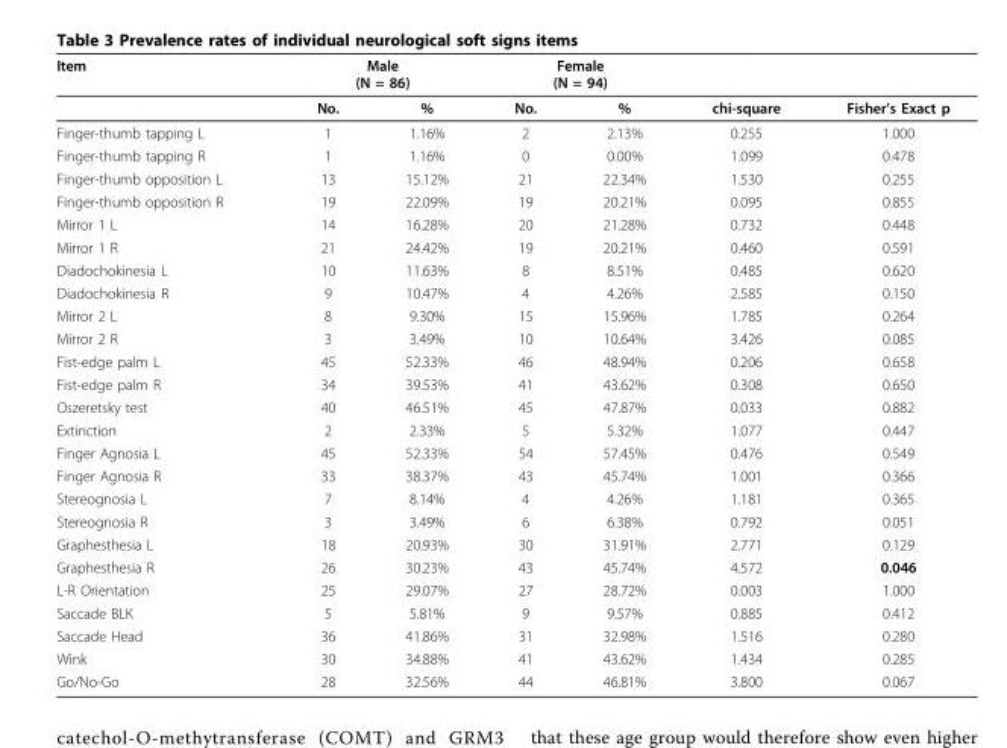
<table><thead><tr><td rowspan="2">Item</td><td colspan="2">Male (N = 86)</td><td colspan="2">Female (N = 94)</td><td rowspan="2">chi-square</td><td rowspan="2">Fisher’s Exact p</td></tr><tr><td>No.</td><td>%</td><td>No.</td><td>%</td></tr></thead><tbody><tr><td>Finger-thumb tapping L</td><td>1</td><td>1.16%</td><td>2</td><td>2.13%</td><td>0.255</td><td>1.000</td></tr><tr><td>Finger-thumb tapping R</td><td>1</td><td>1.16%</td><td>0</td><td>0.00%</td><td>1.099</td><td>0.478</td></tr><tr><td>Finger-thumb opposition L</td><td>13</td><td>15.12%</td><td>21</td><td>22.34%</td><td>1.530</td><td>0.255</td></tr><tr><td>Finger-thumb opposition R</td><td>19</td><td>22.09%</td><td>19</td><td>20.21%</td><td>0.095</td><td>0.855</td></tr><tr><td>Mirror 1 L</td><td>14</td><td>16.28%</td><td>20</td><td>21.28%</td><td>0.732</td><td>0.448</td></tr><tr><td>Mirror 1 R</td><td>21</td><td>24.42%</td><td>19</td><td>20.21%</td><td>0.460</td><td>0.591</td></tr><tr><td>Diadochokinesia L</td><td>10</td><td>11.63%</td><td>8</td><td>8.51%</td><td>0.485</td><td>0.620</td></tr><tr><td>Diadochokinesia R</td><td>9</td><td>10.47%</td><td>4</td><td>4.26%</td><td>2.585</td><td>0.150</td></tr><tr><td>Mirror 2 L</td><td>8</td><td>9.30%</td><td>15</td><td>15.96%</td><td>1.785</td><td>0.264</td></tr><tr><td>Mirror 2 R</td><td>3</td><td>3.49%</td><td>10</td><td>10.64%</td><td>3.426</td><td>0.085</td></tr><tr><td>Fist-edge palm L</td><td>45</td><td>52.33%</td><td>46</td><td>48.94%</td><td>0.206</td><td>0.658</td></tr><tr><td>Fist-edge palm R</td><td>34</td><td>39.53%</td><td>41</td><td>43.62%</td><td>0.308</td><td>0.650</td></tr><tr><td>Oszeretsky test</td><td>40</td><td>46.51%</td><td>45</td><td>47.87%</td><td>0.033</td><td>0.882</td></tr><tr><td>Extinction</td><td>2</td><td>2.33%</td><td>5</td><td>5.32%</td><td>1.077</td><td>0.447</td></tr><tr><td>Finger Agnosia L</td><td>45</td><td>52.33%</td><td>54</td><td>57.45%</td><td>0.476</td><td>0.549</td></tr><tr><td>Finger Agnosia R</td><td>33</td><td>38.37%</td><td>43</td><td>45.74%</td><td>1.001</td><td>0.366</td></tr><tr><td>Stereognosia L</td><td>7</td><td>8.14%</td><td>4</td><td>4.26%</td><td>1.181</td><td>0.365</td></tr><tr><td>Stereognosia R</td><td>3</td><td>3.49%</td><td>6</td><td>6.38%</td><td>0.792</td><td>0.051</td></tr><tr><td>Graphesthesia L</td><td>18</td><td>20.93%</td><td>30</td><td>31.91%</td><td>2.771</td><td>0.129</td></tr><tr><td>Graphesthesia R</td><td>26</td><td>30.23%</td><td>43</td><td>45.74%</td><td>4.572</td><td>0.046</td></tr><tr><td>L-R Orientation</td><td>25</td><td>29.07%</td><td>27</td><td>28.72%</td><td>0.003</td><td>1.000</td></tr><tr><td>Saccade BLK</td><td>5</td><td>5.81%</td><td>9</td><td>9.57%</td><td>0.885</td><td>0.412</td></tr><tr><td>Saccade Head</td><td>36</td><td>41.86%</td><td>31</td><td>32.98%</td><td>1.516</td><td>0.280</td></tr><tr><td>Wink</td><td>30</td><td>34.88%</td><td>41</td><td>43.62%</td><td>1.434</td><td>0.285</td></tr><tr><td>Go/No-Go</td><td>28</td><td>32.56%</td><td>44</td><td>46.81%</td><td>3.800</td><td>0.067</td></tr></tbody></table>